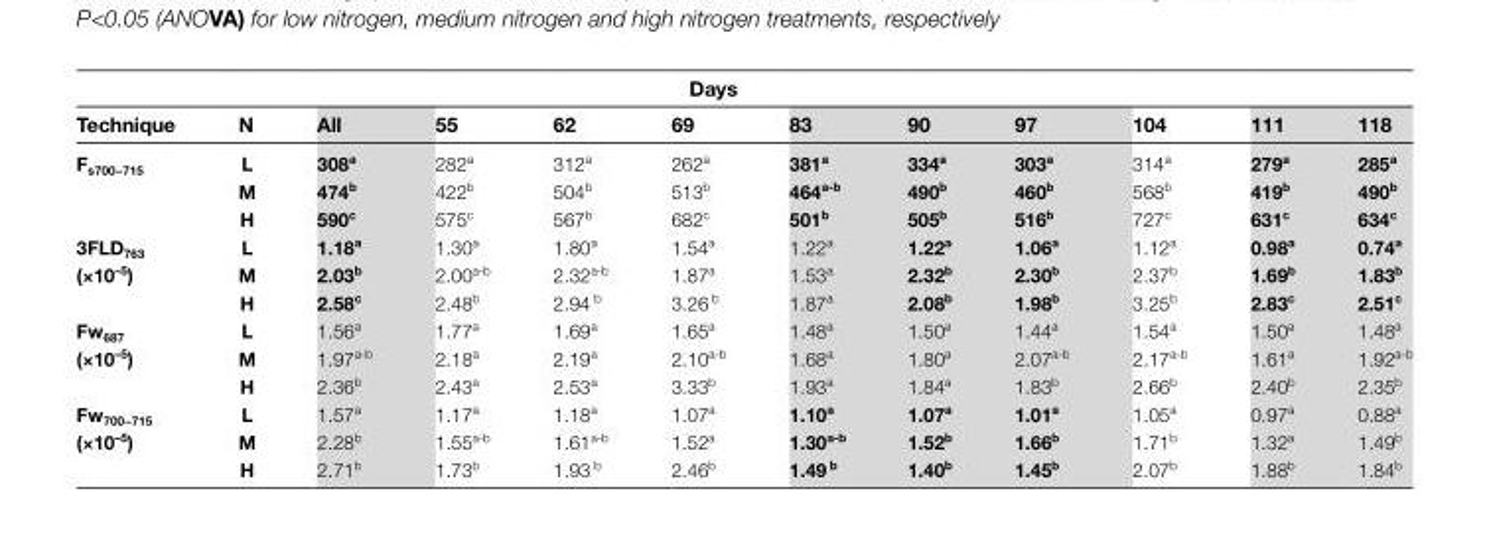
<table><thead><tr><td colspan="12">Days</td></tr><tr><td>Technique</td><td>N</td><td>All</td><td>55</td><td>62</td><td>69</td><td>83</td><td>90</td><td>97</td><td>104</td><td>111</td><td>118</td></tr></thead><tbody><tr><td rowspan="3">F<sub>s700−715</sub></td><td>L</td><td>308<sup>a</sup></td><td>282<sup>a</sup></td><td>312<sup>a</sup></td><td>262<sup>a</sup></td><td>381<sup>a</sup></td><td>334<sup>a</sup></td><td>303<sup>a</sup></td><td>314<sup>a</sup></td><td>279<sup>a</sup></td><td>285<sup>a</sup></td></tr><tr><td>M</td><td>474<sup>b</sup></td><td>422<sup>b</sup></td><td>504<sup>b</sup></td><td>513<sup>b</sup></td><td>464<sup>a-b</sup></td><td>490<sup>b</sup></td><td>460<sup>b</sup></td><td>568<sup>b</sup></td><td>419<sup>b</sup></td><td>490<sup>b</sup></td></tr><tr><td>H</td><td>590<sup>c</sup></td><td>575<sup>c</sup></td><td>567<sup>b</sup></td><td>682<sup>c</sup></td><td>501b</td><td>505<sup>b</sup></td><td>516<sup>b</sup></td><td>727<sup>c</sup></td><td>631<sup>c</sup></td><td>634<sup>c</sup></td></tr><tr><td rowspan="3">3FLD<sub>763 (×10</sub><sup>–5</sup><sub>)</sub></td><td>L</td><td>1.18<sup>a</sup></td><td>1.30<sup>a</sup></td><td>1.80<sup>a</sup></td><td>1.54<sup>a</sup></td><td>1.22<sup>a</sup></td><td>1.22<sup>a</sup></td><td>1.06<sup>a</sup></td><td>1.12<sup>a</sup></td><td>0.98<sup>a</sup></td><td>0.74<sup>a</sup></td></tr><tr><td>M</td><td>2.03<sup>b</sup></td><td>2.00<sup>a-b</sup></td><td>2.32<sup>a-b</sup></td><td>1.87<sup>a</sup></td><td>1.53<sup>a</sup></td><td>2.32<sup>b</sup></td><td>2.30<sup>b</sup></td><td>2.37<sup>b</sup></td><td>1.69<sup>b</sup></td><td>1.83<sup>b</sup></td></tr><tr><td>H</td><td>2.58<sup>c</sup></td><td>2.48<sup>b</sup></td><td>2.94 <sup>b</sup></td><td>3.26 <sup>b</sup></td><td>1.87<sup>a</sup></td><td>2.08<sup>b</sup></td><td>1.98<sup>b</sup></td><td>3.25<sup>b</sup></td><td>2.83<sup>c</sup></td><td>2.51<sup>c</sup></td></tr><tr><td rowspan="3">Fw<sub>687 (×10</sub><sup>–5</sup><sub>)</sub></td><td>L</td><td>1.56<sup>a</sup></td><td>1.77<sup>a</sup></td><td>1.69<sup>a</sup></td><td>1.65<sup>a</sup></td><td>1.48<sup>a</sup></td><td>1.50<sup>a</sup></td><td>1.44<sup>a</sup></td><td>1.54<sup>a</sup></td><td>1.50<sup>a</sup></td><td>1.48<sup>a</sup></td></tr><tr><td>M</td><td>1.97<sup>a-b</sup></td><td>2.18<sup>a</sup></td><td>2.19<sup>a</sup></td><td>2.10<sup>a-b</sup></td><td>1.68<sup>a</sup></td><td>1.80<sup>a</sup></td><td>2.07<sup>a-b</sup></td><td>2.17<sup>a-b</sup></td><td>1.61<sup>a</sup></td><td>1.92<sup>a-b</sup></td></tr><tr><td>H</td><td>2.36<sup>b</sup></td><td>2.43<sup>a</sup></td><td>2.53<sup>a</sup></td><td>3.33<sup>b</sup></td><td>1.93<sup>a</sup></td><td>1.84<sup>a</sup></td><td>1.83<sup>b</sup></td><td>2.66<sup>b</sup></td><td>2.40<sup>b</sup></td><td>2.35<sup>b</sup></td></tr><tr><td rowspan="3">Fw<sub>700−715 (×10</sub><sup>–5</sup><sub>)</sub></td><td>L</td><td>1.57<sup>a</sup></td><td>1.17<sup>a</sup></td><td>1.18<sup>a</sup></td><td>1.07<sup>a</sup></td><td>1.10<sup>a</sup></td><td>1.07<sup>a</sup></td><td>1.01<sup>a</sup></td><td>1.05<sup>a</sup></td><td>0.97<sup>a</sup></td><td>0.88<sup>a</sup></td></tr><tr><td>M</td><td>2.28<sup>b</sup></td><td>1.55<sup>a-b</sup></td><td>1.61<sup>a-b</sup></td><td>1.52<sup>a</sup></td><td>1.30<sup>a-b</sup></td><td>1.52<sup>b</sup></td><td>1.66<sup>b</sup></td><td>1.71<sup>b</sup></td><td>1.32<sup>a</sup></td><td>1.49<sup>b</sup></td></tr><tr><td>H</td><td>2.71<sup>b</sup></td><td>1.73<sup>b</sup></td><td>1.93 <sup>b</sup></td><td>2.46<sup>b</sup></td><td>1.49 <sup>b</sup></td><td>1.40<sup>b</sup></td><td>1.45<sup>b</sup></td><td>2.07<sup>b</sup></td><td>1.88<sup>b</sup></td><td>1.84<sup>b</sup></td></tr></tbody></table>